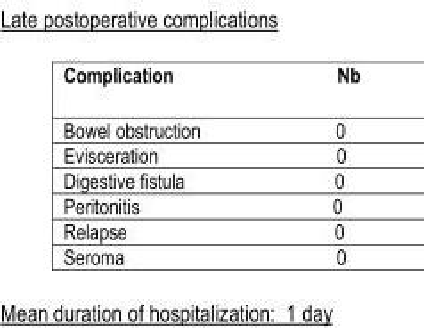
<table><thead><tr><td rowspan="7">Complication Bowel obstruction Evisceration Digestive fistula Peritonitis Relapse Seroma</td><td rowspan="7">Nb 0 0 0 0 0 0</td></tr><tr></tr><tr></tr><tr></tr><tr></tr><tr></tr><tr></tr></thead><tbody></tbody></table>